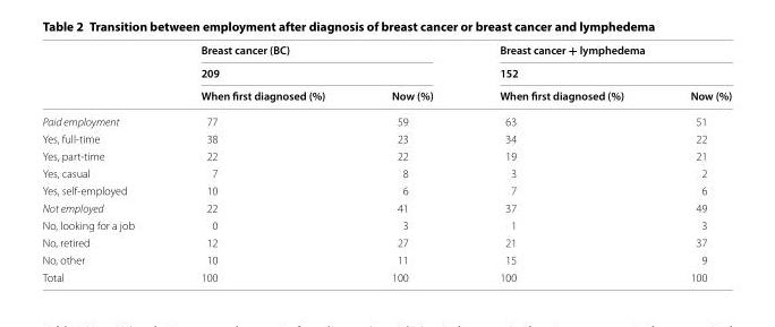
<table><thead><tr><td rowspan="3"></td><td rowspan="2" colspan="2">Breast cancer (BC) 209</td><td rowspan="2" colspan="2">Breast cancer + lymphedema 152</td></tr><tr></tr><tr><td>When first diagnosed (%)</td><td>Now (%)</td><td>When first diagnosed (%)</td><td>Now (%)</td></tr></thead><tbody><tr><td>Paid employment</td><td>77</td><td>59</td><td>63</td><td>51</td></tr><tr><td>Yes, full-time</td><td>38</td><td>23</td><td>34</td><td>22</td></tr><tr><td>Yes, part-time</td><td>22</td><td>22</td><td>19</td><td>21</td></tr><tr><td>Yes, casual</td><td>7</td><td>8</td><td>3</td><td>2</td></tr><tr><td>Yes, self-employed</td><td>10</td><td>6</td><td>7</td><td>6</td></tr><tr><td>Not employed</td><td>22</td><td>41</td><td>37</td><td>49</td></tr><tr><td>No, looking for a job</td><td>0</td><td>3</td><td>1</td><td>3</td></tr><tr><td>No, retired</td><td>12</td><td>27</td><td>21</td><td>37</td></tr><tr><td>No, other</td><td>10</td><td>11</td><td>15</td><td>9</td></tr><tr><td>Total</td><td>100</td><td>100</td><td>100</td><td>100</td></tr></tbody></table>